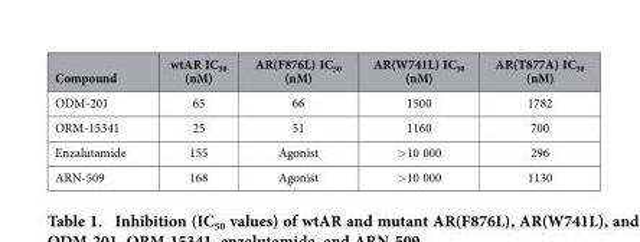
<table><thead><tr><td>Compound</td><td>wtAR IC<sub>50</sub> (nM)</td><td>AR(F876L) IC<sub>50</sub> (nM)</td><td>AR(W741L) IC<sub>50</sub> (nM)</td><td>AR(T877A) IC<sub>50</sub> (nM)</td></tr></thead><tbody><tr><td>ODM-201</td><td>65</td><td>66</td><td>1500</td><td>1782</td></tr><tr><td>ORM-15341</td><td>25</td><td>51</td><td>1160</td><td>700</td></tr><tr><td>Enzalutamide</td><td>155</td><td>Agonist</td><td>&gt;10 000</td><td>296</td></tr><tr><td>ARN-509</td><td>168</td><td>Agonist</td><td>&gt;10 000</td><td>1130</td></tr></tbody></table>